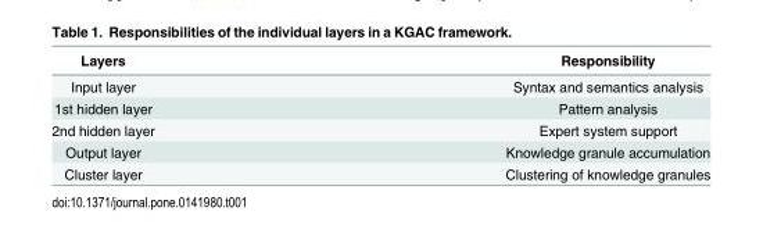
<table><thead><tr><td>Layers</td><td>Responsibility</td></tr></thead><tbody><tr><td>Input layer</td><td>Syntax and semantics analysis</td></tr><tr><td>1st hidden layer</td><td>Pattern analysis</td></tr><tr><td>2nd hidden layer</td><td>Expert system support</td></tr><tr><td>Output layer</td><td>Knowledge granule accumulation</td></tr><tr><td>Cluster layer</td><td>Clustering of knowledge granules</td></tr></tbody></table>